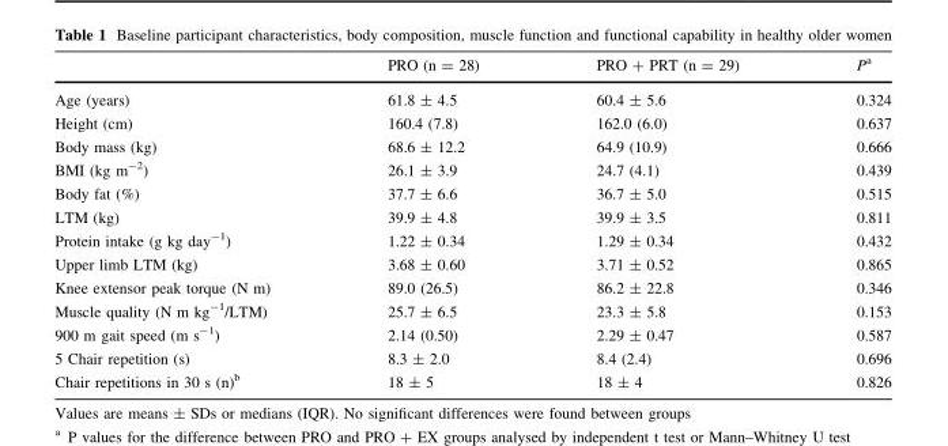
<table><thead><tr><td></td><td>PRO (n = 28)</td><td>PRO + PRT (n = 29)</td><td>P<sup>a</sup></td></tr></thead><tbody><tr><td>Age (years)</td><td>61.8 ± 4.5</td><td>60.4 ± 5.6</td><td>0.324</td></tr><tr><td>Height (cm)</td><td>160.4 (7.8)</td><td>162.0 (6.0)</td><td>0.637</td></tr><tr><td>Body mass (kg)</td><td>68.6 ± 12.2</td><td>64.9 (10.9)</td><td>0.666</td></tr><tr><td>BMI (kg m<sup>-2</sup>)</td><td>26.1 ± 3.9</td><td>24.7 (4.1)</td><td>0.439</td></tr><tr><td>Body fat (%)</td><td>37.7 ± 6.6</td><td>36.7 ± 5.0</td><td>0.515</td></tr><tr><td>LTM (kg)</td><td>39.9 ± 4.8</td><td>39.9 ± 3.5</td><td>0.811</td></tr><tr><td>Protein intake (g kg day<sup>-1</sup>)</td><td>1.22 ± 0.34</td><td>1.29 ± 0.34</td><td>0.432</td></tr><tr><td>Upper limb LTM (kg)</td><td>3.68 ± 0.60</td><td>3.71 ± 0.52</td><td>0.865</td></tr><tr><td>Knee extensor peak torque (N m)</td><td>89.0 (26.5)</td><td>86.2 ± 22.8</td><td>0.346</td></tr><tr><td>Muscle quality (N m kg<sup>-1</sup>/LTM)</td><td>25.7 ± 6.5</td><td>23.3 ± 5.8</td><td>0.153</td></tr><tr><td>900 m gait speed (m s<sup>-1</sup>)</td><td>2.14 (0.50)</td><td>2.29 ± 0.47</td><td>0.587</td></tr><tr><td>5 Chair repetition (s)</td><td>8.3 ± 2.0</td><td>8.4 (2.4)</td><td>0.696</td></tr><tr><td>Chair repetitions in 30 s (n)<sup>b</sup></td><td>18 ± 5</td><td>18 ± 4</td><td>0.826</td></tr></tbody></table>